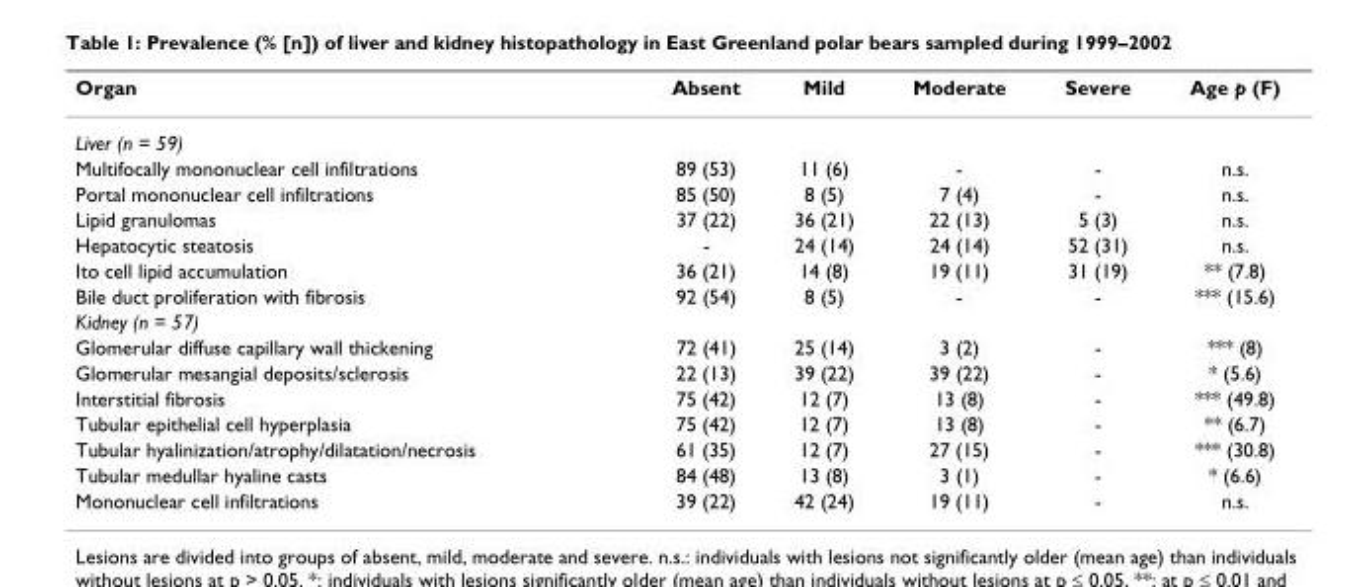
<table><thead><tr><td>Organ</td><td>Absent</td><td>Mild</td><td>Moderate</td><td>Severe</td><td>Age p (F)</td></tr></thead><tbody><tr><td colspan="6">Liver (n = 59)</td></tr><tr><td>Multifocally mononuclear cell infiltrations</td><td>89 (53)</td><td>11 (6)</td><td>-</td><td>-</td><td>n.s.</td></tr><tr><td>Portal mononuclear cell infiltrations</td><td>85 (50)</td><td>8 (5)</td><td>7 (4)</td><td>-</td><td>n.s.</td></tr><tr><td>Lipid granulomas</td><td>37 (22)</td><td>36 (21)</td><td>22 (13)</td><td>5 (3)</td><td>n.s.</td></tr><tr><td>Hepatocytic steatosis</td><td>-</td><td>24 (14)</td><td>24 (14)</td><td>52 (31)</td><td>n.s.</td></tr><tr><td>Ito cell lipid accumulation</td><td>36 (21)</td><td>14 (8)</td><td>19 (11)</td><td>31 (19)</td><td>** (7.8)</td></tr><tr><td>Bile duct proliferation with fibrosis</td><td>92 (54)</td><td>8 (5)</td><td>-</td><td>-</td><td>*** (15.6)</td></tr><tr><td colspan="6">Kidney (n = 57)</td></tr><tr><td>Glomerular diffuse capillary wall thickening</td><td>72 (41)</td><td>25 (14)</td><td>3 (2)</td><td>-</td><td>*** (8)</td></tr><tr><td>Glomerular mesangial deposits/sclerosis</td><td>22 (13)</td><td>39 (22)</td><td>39 (22)</td><td>-</td><td>* (5.6)</td></tr><tr><td>Interstitial fibrosis</td><td>75 (42)</td><td>12 (7)</td><td>13 (8)</td><td>-</td><td>*** (49.8)</td></tr><tr><td>Tubular epithelial cell hyperplasia</td><td>75 (42)</td><td>12 (7)</td><td>13 (8)</td><td>-</td><td>** (6.7)</td></tr><tr><td>Tubular hyalinization/atrophy/dilatation/necrosis</td><td>61 (35)</td><td>12 (7)</td><td>27 (15)</td><td>-</td><td>*** (30.8)</td></tr><tr><td>Tubular medullar hyaline casts</td><td>84 (48)</td><td>13 (8)</td><td>3 (1)</td><td>-</td><td>* (6.6)</td></tr><tr><td>Mononuclear cell infiltrations</td><td>39 (22)</td><td>42 (24)</td><td>19 (11)</td><td>-</td><td>n.s.</td></tr></tbody></table>